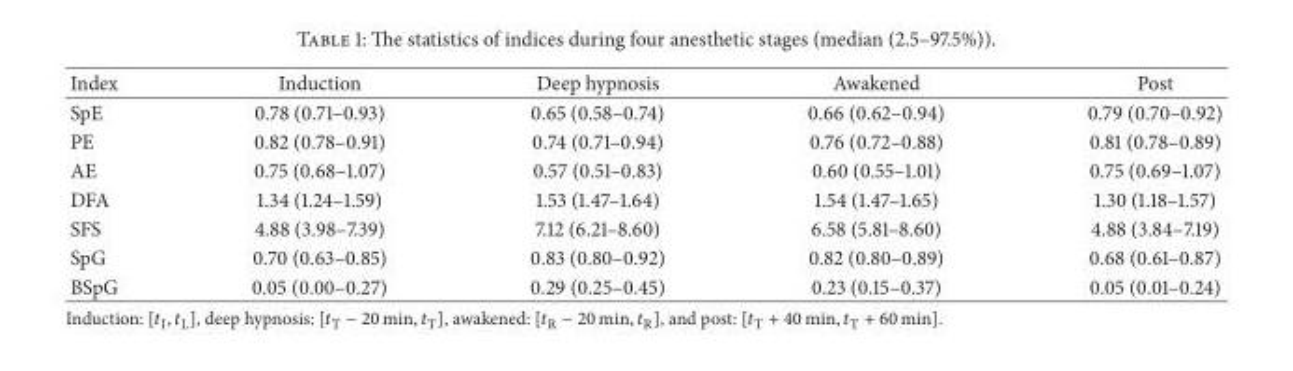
<table><thead><tr><td>Index</td><td>Induction</td><td>Deep hypnosis</td><td>Awakened</td><td>Post</td></tr></thead><tbody><tr><td>SpE</td><td>0.78 (0.71–0.93)</td><td>0.65 (0.58–0.74)</td><td>0.66 (0.62–0.94)</td><td>0.79 (0.70–0.92)</td></tr><tr><td>PE</td><td>0.82 (0.78–0.91)</td><td>0.74 (0.71–0.94)</td><td>0.76 (0.72–0.88)</td><td>0.81 (0.78–0.89)</td></tr><tr><td>AE</td><td>0.75 (0.68–1.07)</td><td>0.57 (0.51–0.83)</td><td>0.60 (0.55–1.01)</td><td>0.75 (0.69–1.07)</td></tr><tr><td>DFA</td><td>1.34 (1.24–1.59)</td><td>1.53 (1.47–1.64)</td><td>1.54 (1.47–1.65)</td><td>1.30 (1.18–1.57)</td></tr><tr><td>SFS</td><td>4.88 (3.98–7.39)</td><td>7.12 (6.21–8.60)</td><td>6.58 (5.81–8.60)</td><td>4.88 (3.84–7.19)</td></tr><tr><td>SpG</td><td>0.70 (0.63–0.85)</td><td>0.83 (0.80–0.92)</td><td>0.82 (0.80–0.89)</td><td>0.68 (0.61–0.87)</td></tr><tr><td>BSpG</td><td>0.05 (0.00–0.27)</td><td>0.29 (0.25–0.45)</td><td>0.23 (0.15–0.37)</td><td>0.05 (0.01–0.24)</td></tr></tbody></table>